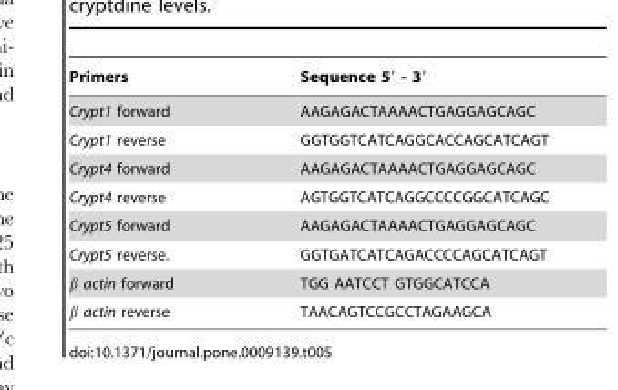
<table><thead><tr><td>Primers</td><td>Sequence 5′ - 3′</td></tr></thead><tbody><tr><td>Crypt1 forward</td><td>AAGAGACTAAAACTGAGGAGCAGC</td></tr><tr><td>Crypt1 reverse</td><td>GGTGGTCATCAGGCACCAGCATCAGT</td></tr><tr><td>Crypt4 forward</td><td>AAGAGACTAAAACTGAGGAGCAGC</td></tr><tr><td>Crypt4 reverse</td><td>AGTGGTCATCAGGCCCCGGCATCAGC</td></tr><tr><td>Crypt5 forward</td><td>AAGAGACTAAAACTGAGGAGCAGC</td></tr><tr><td>Crypt5 reverse.</td><td>GGTGATCATCAGACCCCAGCATCAGT</td></tr><tr><td>β actin forward</td><td>TGG AATCCT GTGGCATCCA</td></tr><tr><td>β actin reverse</td><td>TAACAGTCCGCCTAGAAGCA</td></tr></tbody></table>